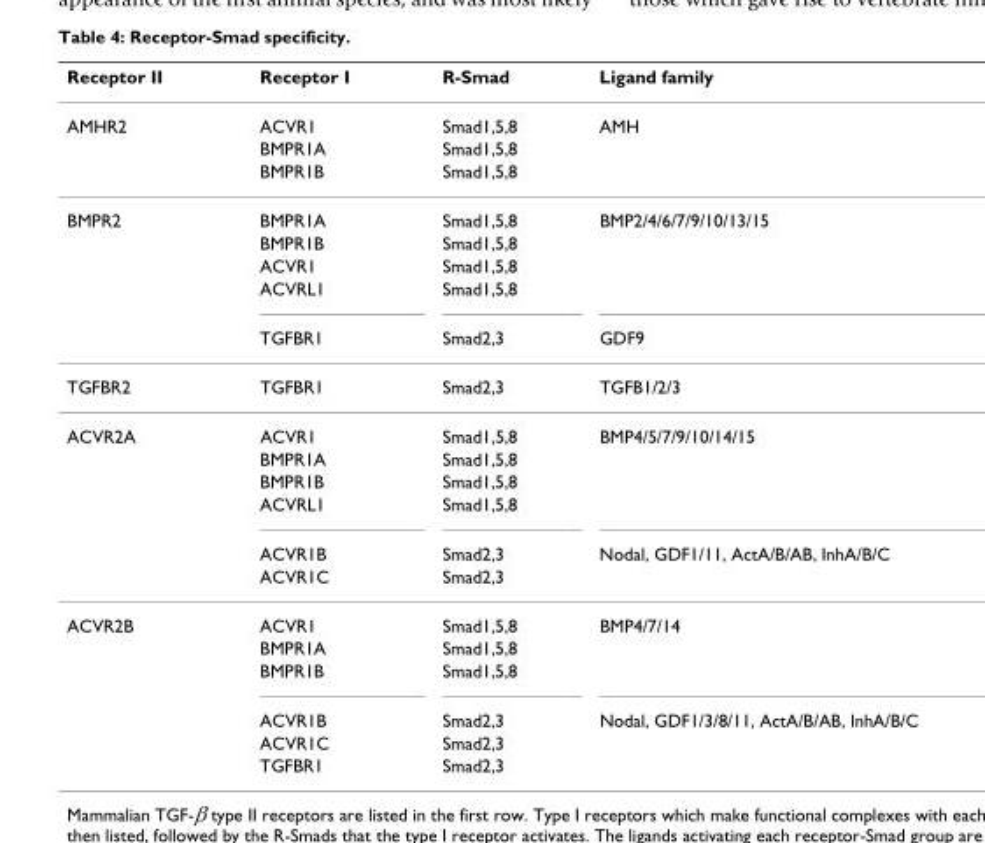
<table><thead><tr><td>Receptor II</td><td>Receptor I</td><td>R-Smad</td><td>Ligand family</td></tr></thead><tbody><tr><td rowspan="3">AMHR2</td><td>ACVR1</td><td>Smad1,5,8</td><td>AMH</td></tr><tr><td>BMPR1A</td><td>Smad1,5,8</td><td></td></tr><tr><td>BMPR1B</td><td>Smad1,5,8</td><td></td></tr><tr><td rowspan="5">BMPR2</td><td>BMPR1A</td><td>Smad1,5,8</td><td>BMP2/4/6/7/9/10/13/15</td></tr><tr><td>BMPR1B</td><td>Smad1,5,8</td><td></td></tr><tr><td>ACVR1</td><td>Smad1,5,8</td><td></td></tr><tr><td>ACVRL1</td><td>Smad1,5,8</td><td></td></tr><tr><td>TGFBR1</td><td>Smad2,3</td><td>GDF9</td></tr><tr><td>TGFBR2</td><td>TGFBR1</td><td>Smad2,3</td><td>TGFB1/2/3</td></tr><tr><td rowspan="6">ACVR2A</td><td>ACVR1</td><td>Smad1,5,8</td><td>BMP4/5/7/9/10/14/15</td></tr><tr><td>BMPR1A</td><td>Smad1,5,8</td><td></td></tr><tr><td>BMPR1B</td><td>Smad1,5,8</td><td></td></tr><tr><td>ACVRL1</td><td>Smad1,5,8</td><td></td></tr><tr><td>ACVR1B</td><td>Smad2,3</td><td>Nodal, GDF1/11, ActA/B/AB, InhA/B/C</td></tr><tr><td>ACVR1C</td><td>Smad2,3</td><td></td></tr><tr><td rowspan="6">ACVR2B</td><td>ACVR1</td><td>Smad1,5,8</td><td>BMP4/7/14</td></tr><tr><td>BMPR1A</td><td>Smad1,5,8</td><td></td></tr><tr><td>BMPR1B</td><td>Smad1,5,8</td><td></td></tr><tr><td>ACVR1B</td><td>Smad2,3</td><td>Nodal, GDF1/3/8/11, ActA/B/AB, InhA/B/C</td></tr><tr><td>ACVR1C</td><td>Smad2,3</td><td></td></tr><tr><td>TGFBR1</td><td>Smad2,3</td><td></td></tr></tbody></table>